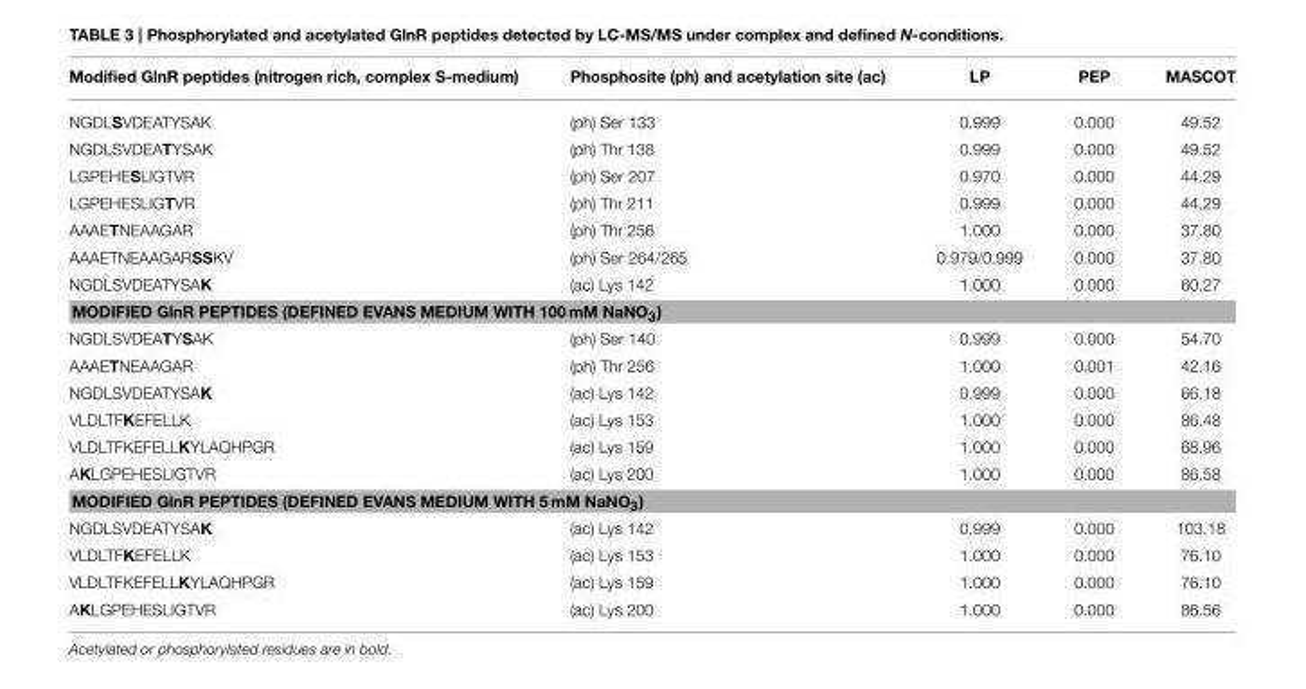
<table><thead><tr><td>Modified GlnR peptides (nitrogen rich, complex S-medium)</td><td>Phosphosite (ph) and acetylation site (ac)</td><td>LP</td><td>PEP</td><td>MASCOT</td></tr></thead><tbody><tr><td>NGDLSVDEATYSAK</td><td>(ph) Ser 133</td><td>0.999</td><td>0.000</td><td>49.52</td></tr><tr><td>NGDLSVDEATYSAK</td><td>(ph) Thr 138</td><td>0.999</td><td>0.000</td><td>49.52</td></tr><tr><td>LGPEHESLIGTVR</td><td>(ph) Ser 207</td><td>0.970</td><td>0.000</td><td>44.29</td></tr><tr><td>LGPEHESLIGTVR</td><td>(ph) Thr 211</td><td>0.999</td><td>0.000</td><td>44.29</td></tr><tr><td>AAAETNEAAGAR</td><td>(ph) Thr 256</td><td>1.000</td><td>0.000</td><td>37.80</td></tr><tr><td>AAAETNEAAGARSSKV</td><td>(ph) Ser 264/265</td><td>0.979/0.999</td><td>0.000</td><td>37.80</td></tr><tr><td>NGDLSVDEATYSAK</td><td>(ac) Lys 142</td><td>1.000</td><td>0.000</td><td>60.27</td></tr><tr><td colspan="5">MODIFIED GlnR PEPTIDES (DEFINED EVANS MEDIUM WITH 100 mM NaNO<sub>3</sub>)</td></tr><tr><td>NGDLSVDEATYSAK</td><td>(ph) Ser 140</td><td>0.999</td><td>0.000</td><td>54.70</td></tr><tr><td>AAAETNEAAGAR</td><td>(ph) Thr 256</td><td>1.000</td><td>0.001</td><td>42.16</td></tr><tr><td>NGDLSVDEATYSAK</td><td>(ac) Lys 142</td><td>0.999</td><td>0.000</td><td>66.18</td></tr><tr><td>VLDLTFKEFELLK</td><td>(ac) Lys 153</td><td>1.000</td><td>0.000</td><td>86.48</td></tr><tr><td>VLDLTFKEFELLKYLAQHPGR</td><td>(ac) Lys 159</td><td>1.000</td><td>0.000</td><td>68.96</td></tr><tr><td>AKLGPEHESLIGTVR</td><td>(ac) Lys 200</td><td>1.000</td><td>0.000</td><td>86.58</td></tr><tr><td colspan="5">MODIFIED GlnR PEPTIDES (DEFINED EVANS MEDIUM WITH 5 mM NaNO<sub>3</sub>)</td></tr><tr><td>NGDLSVDEATYSAK</td><td>(ac) Lys 142</td><td>0.999</td><td>0.000</td><td>103.18</td></tr><tr><td>VLDLTFKEFELLK</td><td>(ac) Lys 153</td><td>1.000</td><td>0.000</td><td>76.10</td></tr><tr><td>VLDLTFKEFELLKYLAQHPGR</td><td>(ac) Lys 159</td><td>1.000</td><td>0.000</td><td>76.10</td></tr><tr><td>AKLGPEHESLIGTVR</td><td>(ac) Lys 200</td><td>1.000</td><td>0.000</td><td>86.56</td></tr></tbody></table>